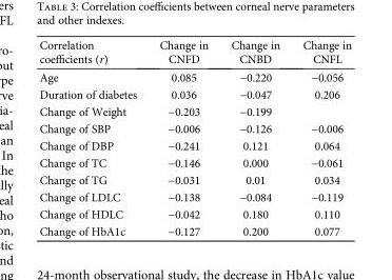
<table><thead><tr><td>Correlation coefficients (r)</td><td>Change in CNFD</td><td>Change in CNBD</td><td>Change in CNFL</td></tr></thead><tbody><tr><td>Age</td><td>0.085</td><td>−0.220</td><td>−0.056</td></tr><tr><td>Duration of diabetes</td><td>0.036</td><td>−0.047</td><td>0.206</td></tr><tr><td>Change of Weight</td><td>−0.203</td><td>−0.199</td><td></td></tr><tr><td>Change of SBP</td><td>−0.006</td><td>−0.126</td><td>−0.006</td></tr><tr><td>Change of DBP</td><td>−0.241</td><td>0.121</td><td>0.064</td></tr><tr><td>Change of TC</td><td>−0.146</td><td>0.000</td><td>−0.061</td></tr><tr><td>Change of TG</td><td>−0.031</td><td>0.01</td><td>0.034</td></tr><tr><td>Change of LDLC</td><td>−0.138</td><td>−0.084</td><td>−0.119</td></tr><tr><td>Change of HDLC</td><td>−0.042</td><td>0.180</td><td>0.110</td></tr><tr><td>Change of HbA1c</td><td>−0.127</td><td>0.200</td><td>0.077</td></tr></tbody></table>